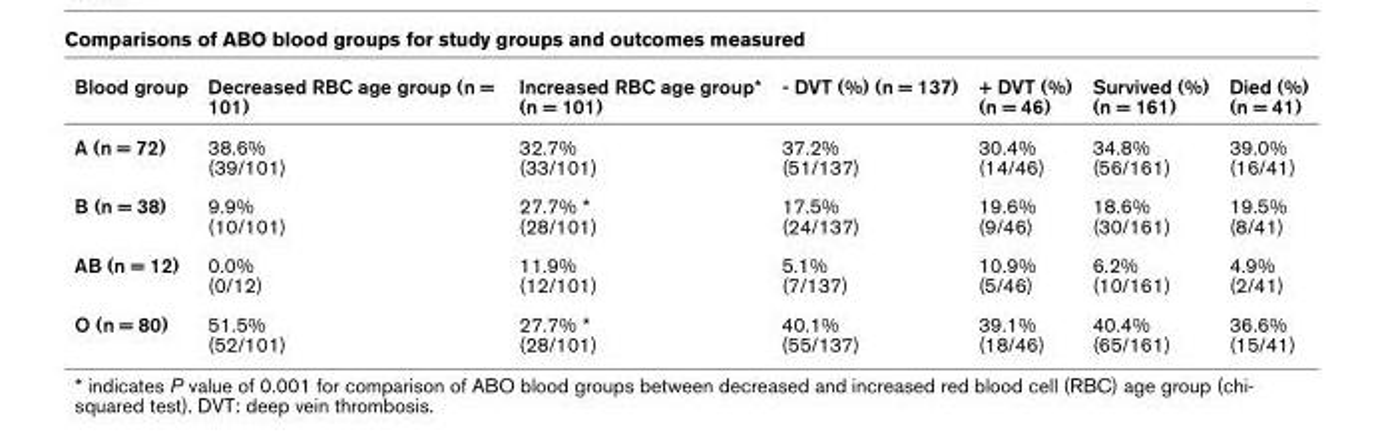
<table><thead><tr><td>Blood group</td><td>Decreased RBC age group (n = 101)</td><td>Increased RBC age group* (n = 101)</td><td>- DVT (%) (n = 137)</td><td>+ DVT (%) (n = 46)</td><td>Survived (%) (n = 161)</td><td>Died (%) (n = 41)</td></tr></thead><tbody><tr><td>A (n = 72)</td><td>38.6% (39/101)</td><td>32.7% (33/101)</td><td>37.2% (51/137)</td><td>30.4% (14/46)</td><td>34.8% (56/161)</td><td>39.0% (16/41)</td></tr><tr><td>B (n = 38)</td><td>9.9% (10/101)</td><td>27.7% * (28/101)</td><td>17.5% (24/137)</td><td>19.6% (9/46)</td><td>18.6% (30/161)</td><td>19.5% (8/41)</td></tr><tr><td>AB (n = 12)</td><td>0.0% (0/12)</td><td>11.9% (12/101)</td><td>5.1% (7/137)</td><td>10.9% (5/46)</td><td>6.2% (10/161)</td><td>4.9% (2/41)</td></tr><tr><td>O (n = 80)</td><td>51.5% (52/101)</td><td>27.7% * (28/101)</td><td>40.1% (55/137)</td><td>39.1% (18/46)</td><td>40.4% (65/161)</td><td>36.6% (15/41)</td></tr></tbody></table>